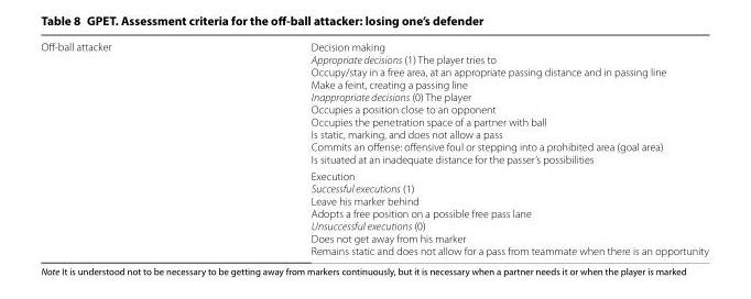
<table><tbody><tr><td rowspan="2">Off‑ball attacker</td><td>Decision making Appropriate decisions (1) The player tries to Occupy/stay in a free area, at an appropriate passing distance and in passing line Make a feint, creating a passing line Inappropriate decisions (0) The player Occupies a position close to an opponent Occupies the penetration space of a partner with ball Is static, marking, and does not allow a pass Commits an offense: offensive foul or stepping into a prohibited area (goal area) Is situated at an inadequate distance for the passer’s possibilities</td></tr><tr><td>Execution Successful executions (1) Leave his marker behind Adopts a free position on a possible free pass lane Unsuccessful executions (0) Does not get away from his marker Remains static and does not allow for a pass from teammate when there is an opportunity</td></tr></tbody></table>